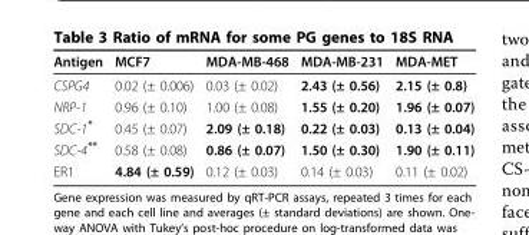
<table><thead><tr><td>Antigen</td><td>MCF7</td><td>MDA-MB-468</td><td>MDA-MB-231</td><td>MDA-MET</td></tr></thead><tbody><tr><td>CSPG4</td><td>0.02 (± 0.006)</td><td>0.03 (± 0.02)</td><td>2.43 (± 0.56)</td><td>2.15 (± 0.8)</td></tr><tr><td>NRP-1</td><td>0.96 (± 0.10)</td><td>1.00 (± 0.08)</td><td>1.55 (± 0.20)</td><td>1.96 (± 0.07)</td></tr><tr><td>SDC-1*</td><td>0.45 (± 0.07)</td><td>2.09 (± 0.18)</td><td>0.22 (± 0.03)</td><td>0.13 (± 0.04)</td></tr><tr><td>SDC-4**</td><td>0.58 (± 0.08)</td><td>0.86 (± 0.07)</td><td>1.50 (± 0.30)</td><td>1.90 (± 0.11)</td></tr><tr><td>ER1</td><td>4.84 (± 0.59)</td><td>0.12 (± 0.03)</td><td>0.14 (± 0.03)</td><td>0.11 (± 0.02)</td></tr></tbody></table>